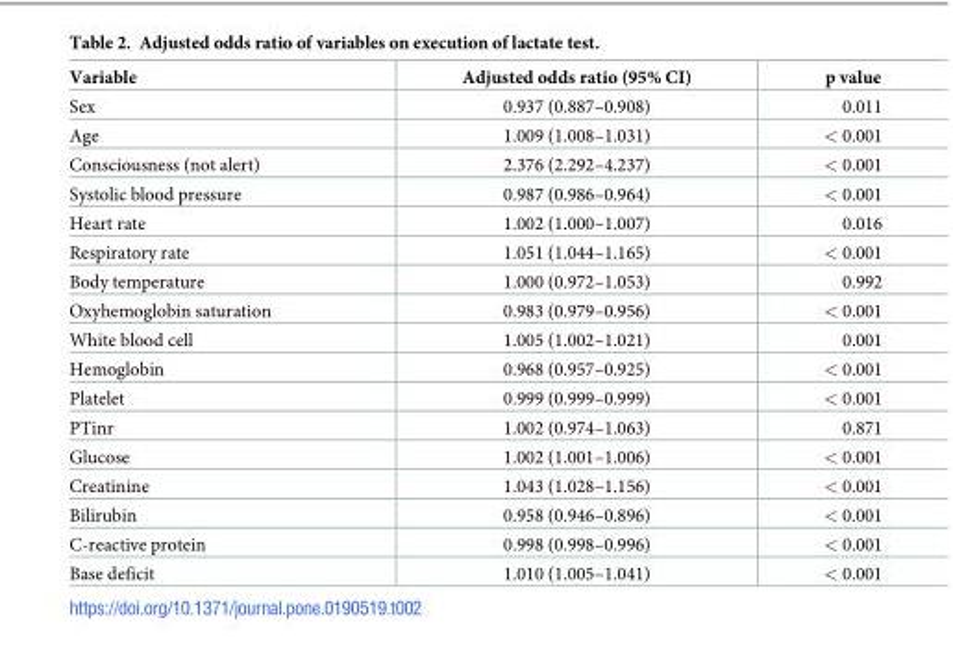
<table><thead><tr><td>Variable</td><td>Adjusted odds ratio (95% CI)</td><td>p value</td></tr></thead><tbody><tr><td>Sex</td><td>0.937 (0.887–0.908)</td><td>0.011</td></tr><tr><td>Age</td><td>1.009 (1.008–1.031)</td><td>&lt; 0.001</td></tr><tr><td>Consciousness (not alert)</td><td>2.376 (2.292–4.237)</td><td>&lt; 0.001</td></tr><tr><td>Systolic blood pressure</td><td>0.987 (0.986–0.964)</td><td>&lt; 0.001</td></tr><tr><td>Heart rate</td><td>1.002 (1.000–1.007)</td><td>0.016</td></tr><tr><td>Respiratory rate</td><td>1.051 (1.044–1.165)</td><td>&lt; 0.001</td></tr><tr><td>Body temperature</td><td>1.000 (0.972–1.053)</td><td>0.992</td></tr><tr><td>Oxyhemoglobin saturation</td><td>0.983 (0.979–0.956)</td><td>&lt; 0.001</td></tr><tr><td>White blood cell</td><td>1.005 (1.002–1.021)</td><td>0.001</td></tr><tr><td>Hemoglobin</td><td>0.968 (0.957–0.925)</td><td>&lt; 0.001</td></tr><tr><td>Platelet</td><td>0.999 (0.999–0.999)</td><td>&lt; 0.001</td></tr><tr><td>PTinr</td><td>1.002 (0.974–1.063)</td><td>0.871</td></tr><tr><td>Glucose</td><td>1.002 (1.001–1.006)</td><td>&lt; 0.001</td></tr><tr><td>Creatinine</td><td>1.043 (1.028–1.156)</td><td>&lt; 0.001</td></tr><tr><td>Bilirubin</td><td>0.958 (0.946–0.896)</td><td>&lt; 0.001</td></tr><tr><td>C-reactive protein</td><td>0.998 (0.998–0.996)</td><td>&lt; 0.001</td></tr><tr><td>Base deficit</td><td>1.010 (1.005–1.041)</td><td>&lt; 0.001</td></tr></tbody></table>